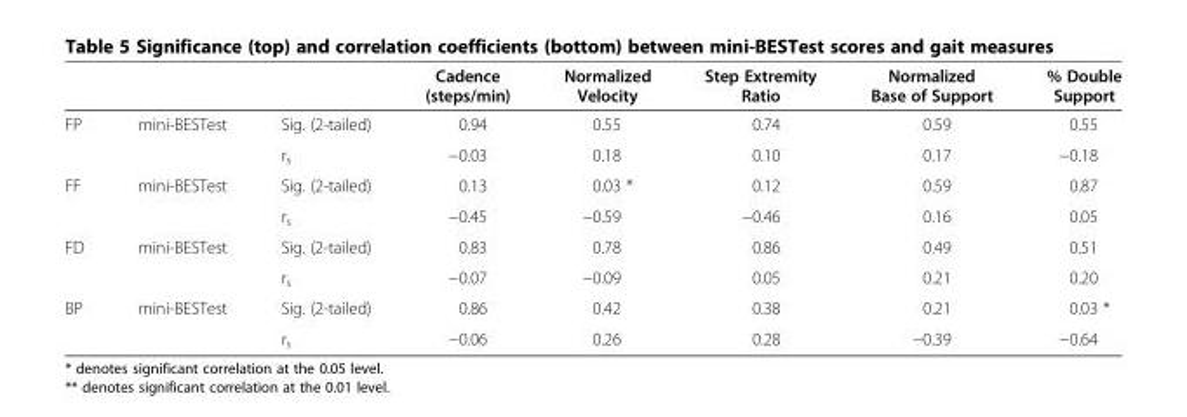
<table><thead><tr><td></td><td></td><td></td><td>Cadence (steps/min)</td><td>Normalized Velocity</td><td>Step Extremity Ratio</td><td>Normalized Base of Support</td><td>% Double Support</td></tr></thead><tbody><tr><td rowspan="2">FP</td><td rowspan="2">mini-BESTest</td><td>Sig. (2-tailed)</td><td>0.94</td><td>0.55</td><td>0.74</td><td>0.59</td><td>0.55</td></tr><tr><td>r<sub>s</sub></td><td>−0.03</td><td>0.18</td><td>0.10</td><td>0.17</td><td>−0.18</td></tr><tr><td rowspan="2">FF</td><td rowspan="2">mini-BESTest</td><td>Sig. (2-tailed)</td><td>0.13</td><td>0.03 *</td><td>0.12</td><td>0.59</td><td>0.87</td></tr><tr><td>r<sub>s</sub></td><td>−0.45</td><td>−0.59</td><td>−0.46</td><td>0.16</td><td>0.05</td></tr><tr><td rowspan="2">FD</td><td rowspan="2">mini-BESTest</td><td>Sig. (2-tailed)</td><td>0.83</td><td>0.78</td><td>0.86</td><td>0.49</td><td>0.51</td></tr><tr><td>r<sub>s</sub></td><td>−0.07</td><td>−0.09</td><td>0.05</td><td>0.21</td><td>0.20</td></tr><tr><td rowspan="2">BP</td><td>mini-BESTest</td><td>Sig. (2-tailed)</td><td>0.86</td><td>0.42</td><td>0.38</td><td>0.21</td><td>0.03 *</td></tr><tr><td></td><td>r<sub>s</sub></td><td>−0.06</td><td>0.26</td><td>0.28</td><td>−0.39</td><td>−0.64</td></tr></tbody></table>